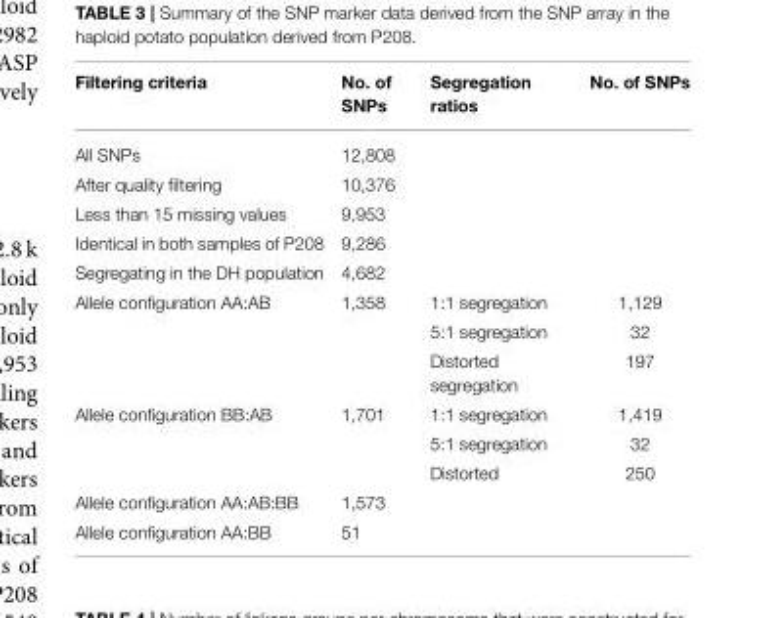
<table><thead><tr><td>Filtering criteria</td><td>No. of SNPs</td><td>Segregation ratios</td><td>No. of SNPs</td></tr></thead><tbody><tr><td>All SNPs</td><td>12,808</td><td></td><td></td></tr><tr><td>After quality filtering</td><td>10,376</td><td></td><td></td></tr><tr><td>Less than 15 missing values</td><td>9,953</td><td></td><td></td></tr><tr><td>Identical in both samples of P208</td><td>9,286</td><td></td><td></td></tr><tr><td>Segregating in the DH population</td><td>4,682</td><td></td><td></td></tr><tr><td rowspan="3">Allele configuration AA:AB</td><td>1,358</td><td>1:1 segregation</td><td>1,129</td></tr><tr><td></td><td>5:1 segregation</td><td>32</td></tr><tr><td></td><td>Distorted segregation</td><td>197</td></tr><tr><td rowspan="3">Allele configuration BB:AB</td><td>1,701</td><td>1:1 segregation</td><td>1,419</td></tr><tr><td></td><td>5:1 segregation</td><td>32</td></tr><tr><td></td><td>Distorted</td><td>250</td></tr><tr><td>Allele configuration AA:AB:BB</td><td>1,573</td><td></td><td></td></tr><tr><td>Allele configuration AA:BB</td><td>51</td><td></td><td></td></tr></tbody></table>